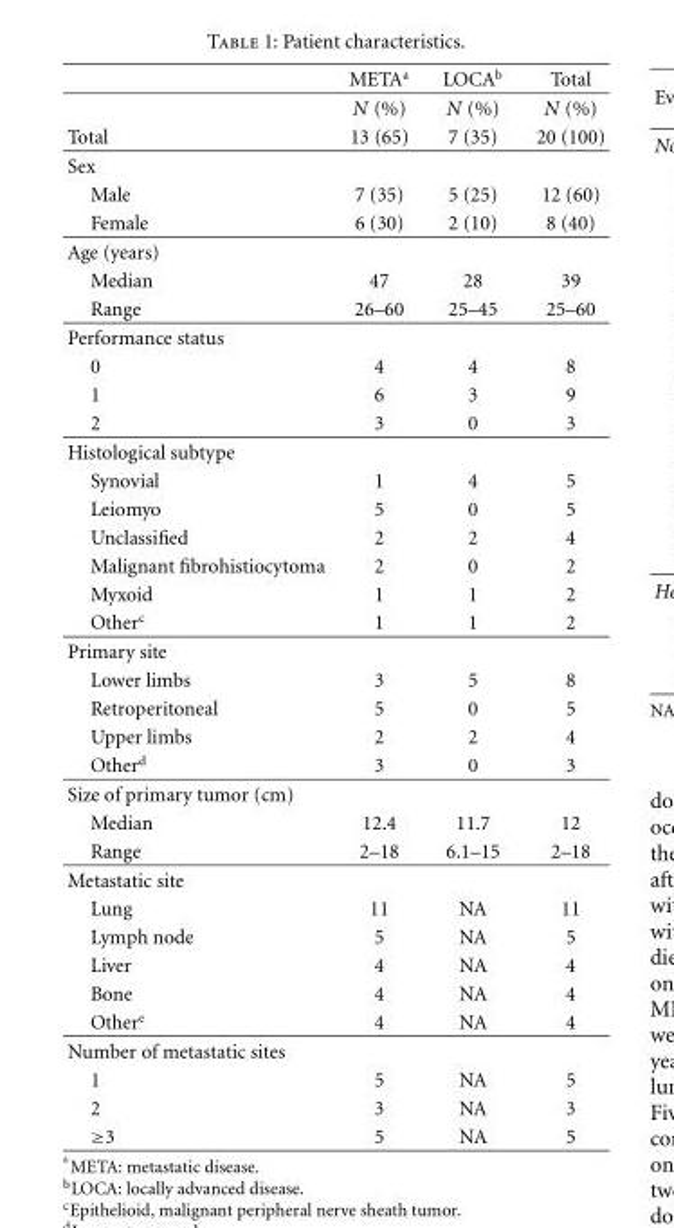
<table><thead><tr><td></td><td>METAa</td><td>LOCAb</td><td>Total</td></tr></thead><tbody><tr><td></td><td>N (%)</td><td>N (%)</td><td>N (%)</td></tr><tr><td>Total</td><td>13 (65)</td><td>7 (35)</td><td>20 (100)</td></tr><tr><td colspan="4">Sex</td></tr><tr><td>Male</td><td>7 (35)</td><td>5 (25)</td><td>12 (60)</td></tr><tr><td>Female</td><td>6 (30)</td><td>2 (10)</td><td>8 (40)</td></tr><tr><td colspan="4">Age (years)</td></tr><tr><td>Median</td><td>47</td><td>28</td><td>39</td></tr><tr><td>Range</td><td>26–60</td><td>25–45</td><td>25–60</td></tr><tr><td colspan="4">Performance status</td></tr><tr><td>0</td><td>4</td><td>4</td><td>8</td></tr><tr><td>1</td><td>6</td><td>3</td><td>9</td></tr><tr><td>2</td><td>3</td><td>0</td><td>3</td></tr><tr><td colspan="4">Histological subtype</td></tr><tr><td>Synovial</td><td>1</td><td>4</td><td>5</td></tr><tr><td>Leiomyo</td><td>5</td><td>0</td><td>5</td></tr><tr><td>Unclassified</td><td>2</td><td>2</td><td>4</td></tr><tr><td>Malignant fibrohistiocytoma</td><td>2</td><td>0</td><td>2</td></tr><tr><td>Myxoid</td><td>1</td><td>1</td><td>2</td></tr><tr><td>Otherc</td><td>1</td><td>1</td><td>2</td></tr><tr><td colspan="4">Primary site</td></tr><tr><td>Lower limbs</td><td>3</td><td>5</td><td>8</td></tr><tr><td>Retroperitoneal</td><td>5</td><td>0</td><td>5</td></tr><tr><td>Upper limbs</td><td>2</td><td>2</td><td>4</td></tr><tr><td>Otherd</td><td>3</td><td>0</td><td>3</td></tr><tr><td colspan="4">Size of primary tumor (cm)</td></tr><tr><td>Median</td><td>12.4</td><td>11.7</td><td>12</td></tr><tr><td>Range</td><td>2–18</td><td>6.1–15</td><td>2–18</td></tr><tr><td colspan="4">Metastatic site</td></tr><tr><td>Lung</td><td>11</td><td>NA</td><td>11</td></tr><tr><td>Lymph node</td><td>5</td><td>NA</td><td>5</td></tr><tr><td>Liver</td><td>4</td><td>NA</td><td>4</td></tr><tr><td>Bone</td><td>4</td><td>NA</td><td>4</td></tr><tr><td>Other<sup>e</sup></td><td>4</td><td>NA</td><td>4</td></tr><tr><td colspan="4">Number of metastatic sites</td></tr><tr><td>1</td><td>5</td><td>NA</td><td>5</td></tr><tr><td>2</td><td>3</td><td>NA</td><td>3</td></tr><tr><td>≥3</td><td>5</td><td>NA</td><td>5</td></tr></tbody></table>